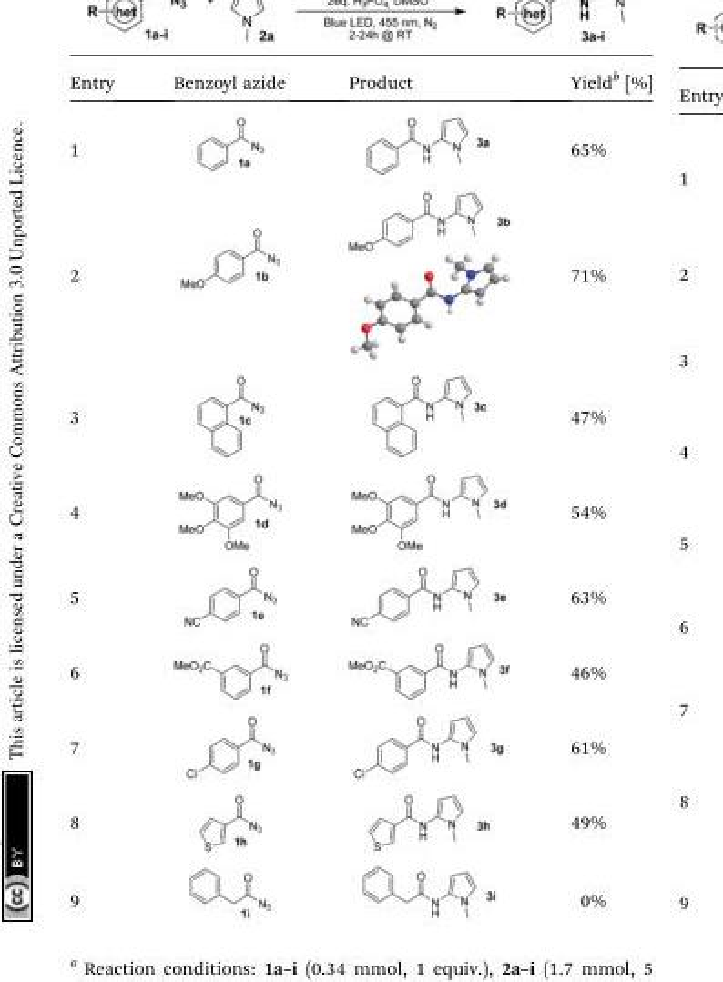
<table><thead><tr><td>Entry</td><td>Benzoyl azide</td><td>Product</td><td>Yield<sup>b</sup> [%]</td></tr></thead><tbody><tr><td>1</td><td></td><td></td><td>65%</td></tr><tr><td>2</td><td></td><td></td><td>71%</td></tr><tr><td>3</td><td></td><td></td><td>47%</td></tr><tr><td>4</td><td></td><td></td><td>54%</td></tr><tr><td>5</td><td></td><td></td><td>63%</td></tr><tr><td>6</td><td></td><td></td><td>46%</td></tr><tr><td>7</td><td></td><td></td><td>61%</td></tr><tr><td>8</td><td></td><td></td><td>49%</td></tr><tr><td>9</td><td></td><td></td><td>0%</td></tr></tbody></table>